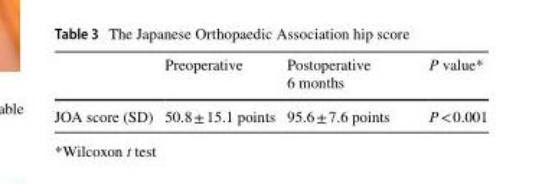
<table><thead><tr><td></td><td>Preoperative</td><td>Postoperative 6 months</td><td>P value*</td></tr></thead><tbody><tr><td>JOA score (SD)</td><td>50.8 ± 15.1 points</td><td>95.6 ± 7.6 points</td><td>P &lt; 0.001</td></tr></tbody></table>